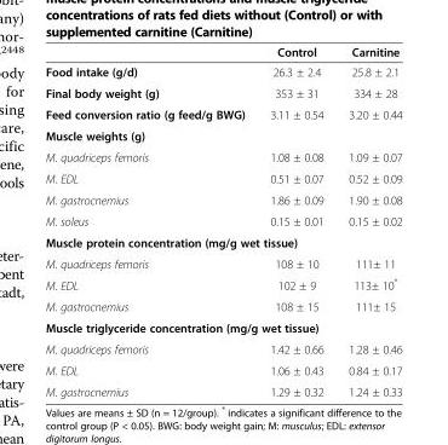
<table><thead><tr><td></td><td>Control</td><td>Carnitine</td></tr></thead><tbody><tr><td>Food intake (g/d)</td><td>26.3 ± 2.4</td><td>25.8 ± 2.1</td></tr><tr><td>Final body weight (g)</td><td>353 ± 31</td><td>334 ± 28</td></tr><tr><td>Feed conversion ratio (g feed/g BWG)</td><td>3.11 ± 0.54</td><td>3.20 ± 0.44</td></tr><tr><td colspan="3">Muscle weights (g)</td></tr><tr><td>M. quadriceps femoris</td><td>1.08 ± 0.08</td><td>1.09 ± 0.07</td></tr><tr><td>M. EDL</td><td>0.51 ± 0.07</td><td>0.52 ± 0.09</td></tr><tr><td>M. gastrocnemius</td><td>1.86 ± 0.09</td><td>1.90 ± 0.08</td></tr><tr><td>M. soleus</td><td>0.15 ± 0.01</td><td>0.15 ± 0.02</td></tr><tr><td colspan="3">Muscle protein concentration (mg/g wet tissue)</td></tr><tr><td>M. quadriceps femoris</td><td>108 ± 10</td><td>111± 11</td></tr><tr><td>M. EDL</td><td>102 ± 9</td><td>113± 10*</td></tr><tr><td>M. gastrocnemius</td><td>108 ± 15</td><td>111± 15</td></tr><tr><td colspan="3">Muscle triglyceride concentration (mg/g wet tissue)</td></tr><tr><td>M. quadriceps femoris</td><td>1.42 ± 0.66</td><td>1.28 ± 0.46</td></tr><tr><td>M. EDL</td><td>1.06 ± 0.43</td><td>0.84 ± 0.17</td></tr><tr><td>M. gastrocnemius</td><td>1.29 ± 0.32</td><td>1.24 ± 0.33</td></tr></tbody></table>